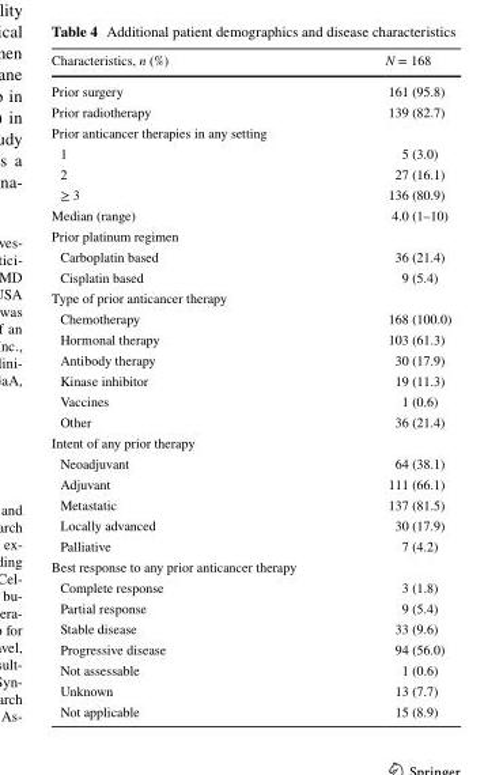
<table><thead><tr><td>Characteristics, n (%)</td><td>N = 168</td></tr></thead><tbody><tr><td>Prior surgery</td><td>161 (95.8)</td></tr><tr><td>Prior radiotherapy</td><td>139 (82.7)</td></tr><tr><td colspan="2">Prior anticancer therapies in any setting</td></tr><tr><td>1</td><td>5 (3.0)</td></tr><tr><td>2</td><td>27 (16.1)</td></tr><tr><td>≥ 3</td><td>136 (80.9)</td></tr><tr><td>Median (range)</td><td>4.0 (1–10)</td></tr><tr><td colspan="2">Prior platinum regimen</td></tr><tr><td>Carboplatin based</td><td>36 (21.4)</td></tr><tr><td>Cisplatin based</td><td>9 (5.4)</td></tr><tr><td colspan="2">Type of prior anticancer therapy</td></tr><tr><td>Chemotherapy</td><td>168 (100.0)</td></tr><tr><td>Hormonal therapy</td><td>103 (61.3)</td></tr><tr><td>Antibody therapy</td><td>30 (17.9)</td></tr><tr><td>Kinase inhibitor</td><td>19 (11.3)</td></tr><tr><td>Vaccines</td><td>1 (0.6)</td></tr><tr><td>Other</td><td>36 (21.4)</td></tr><tr><td colspan="2">Intent of any prior therapy</td></tr><tr><td>Neoadjuvant</td><td>64 (38.1)</td></tr><tr><td>Adjuvant</td><td>111 (66.1)</td></tr><tr><td>Metastatic</td><td>137 (81.5)</td></tr><tr><td>Locally advanced</td><td>30 (17.9)</td></tr><tr><td>Palliative</td><td>7 (4.2)</td></tr><tr><td colspan="2">Best response to any prior anticancer therapy</td></tr><tr><td>Complete response</td><td>3 (1.8)</td></tr><tr><td>Partial response</td><td>9 (5.4)</td></tr><tr><td>Stable disease</td><td>33 (9.6)</td></tr><tr><td>Progressive disease</td><td>94 (56.0)</td></tr><tr><td>Not assessable</td><td>1 (0.6)</td></tr><tr><td>Unknown</td><td>13 (7.7)</td></tr><tr><td>Not applicable</td><td>15 (8.9)</td></tr></tbody></table>